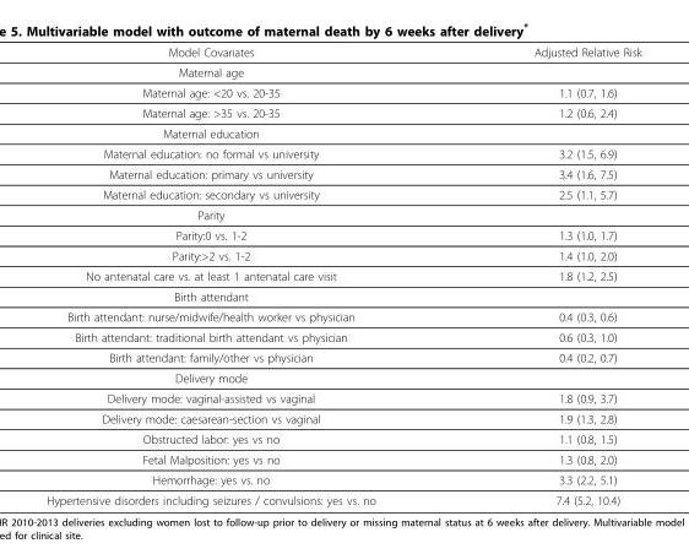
<table><thead><tr><td>Model Covariates</td><td>Adjusted Relative Risk</td></tr></thead><tbody><tr><td colspan="2">Maternal age</td></tr><tr><td>Maternal age: &lt;20 vs. 20-35</td><td>1.1 (0.7, 1.6)</td></tr><tr><td>Maternal age: &gt;35 vs. 20-35</td><td>1.2 (0.6, 2.4)</td></tr><tr><td colspan="2">Maternal education</td></tr><tr><td>Maternal education: no formal vs university</td><td>3.2 (1.5, 6.9)</td></tr><tr><td>Maternal education: primary vs university</td><td>3.4 (1.6, 7.5)</td></tr><tr><td>Maternal education: secondary vs university</td><td>2.5 (1.1, 5.7)</td></tr><tr><td colspan="2">Parity</td></tr><tr><td>Parity:0 vs. 1-2</td><td>1.3 (1.0, 1.7)</td></tr><tr><td>Parity:&gt;2 vs. 1-2</td><td>1.4 (1.0, 2.0)</td></tr><tr><td>No antenatal care vs. at least 1 antenatal care visit</td><td>1.8 (1.2, 2.5)</td></tr><tr><td colspan="2">Birth attendant</td></tr><tr><td>Birth attendant: nurse/midwife/health worker vs physician</td><td>0.4 (0.3, 0.6)</td></tr><tr><td>Birth attendant: traditional birth attendant vs physician</td><td>0.6 (0.3, 1.0)</td></tr><tr><td>Birth attendant: family/other vs physician</td><td>0.4 (0.2, 0.7)</td></tr><tr><td colspan="2">Delivery mode</td></tr><tr><td>Delivery mode: vaginal-assisted vs vaginal</td><td>1.8 (0.9, 3.7)</td></tr><tr><td>Delivery mode: caesarean-section vs vaginal</td><td>1.9 (1.3, 2.8)</td></tr><tr><td>Obstructed labor: yes vs no</td><td>1.1 (0.8, 1.5)</td></tr><tr><td>Fetal Malposition: yes vs no</td><td>1.3 (0.8, 2.0)</td></tr><tr><td>Hemorrhage: yes vs. no</td><td>3.3 (2.2, 5.1)</td></tr><tr><td>Hypertensive disorders including seizures / convulsions: yes vs. no</td><td>7.4 (5.2, 10.4)</td></tr></tbody></table>